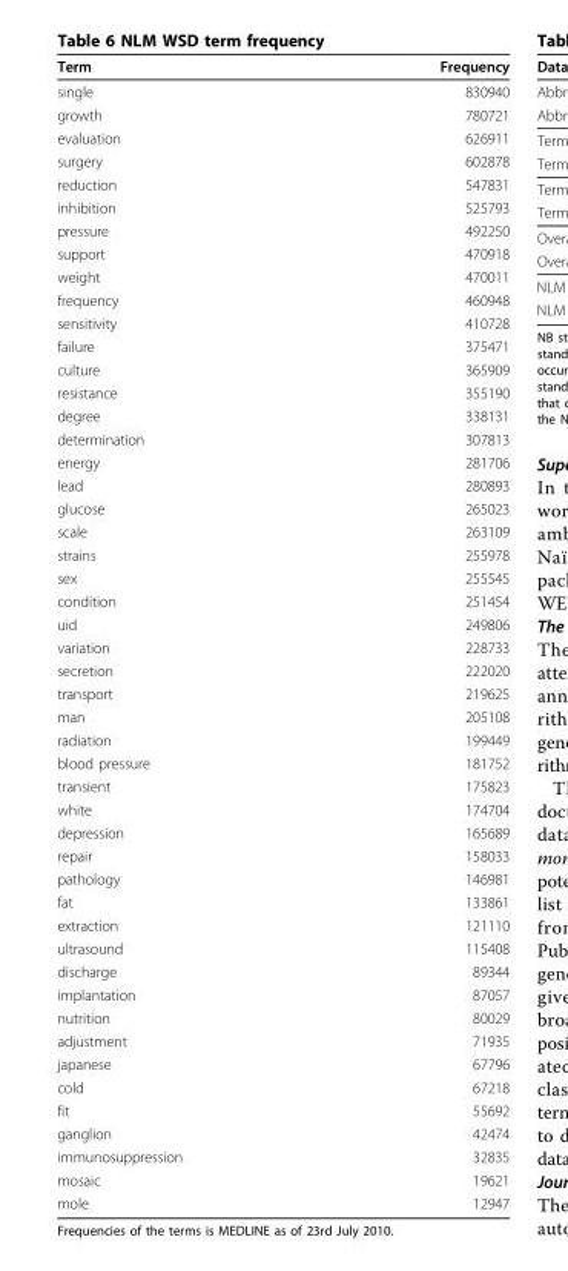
<table><thead><tr><td>Term</td><td>Frequency</td></tr></thead><tbody><tr><td>single</td><td>830940</td></tr><tr><td>growth</td><td>780721</td></tr><tr><td>evaluation</td><td>626911</td></tr><tr><td>surgery</td><td>602878</td></tr><tr><td>reduction</td><td>547831</td></tr><tr><td>inhibition</td><td>525793</td></tr><tr><td>pressure</td><td>492250</td></tr><tr><td>support</td><td>470918</td></tr><tr><td>weight</td><td>470011</td></tr><tr><td>frequency</td><td>460948</td></tr><tr><td>sensitivity</td><td>410728</td></tr><tr><td>failure</td><td>375471</td></tr><tr><td>culture</td><td>365909</td></tr><tr><td>resistance</td><td>355190</td></tr><tr><td>degree</td><td>338131</td></tr><tr><td>determination</td><td>307813</td></tr><tr><td>energy</td><td>281706</td></tr><tr><td>lead</td><td>280893</td></tr><tr><td>glucose</td><td>265023</td></tr><tr><td>scale</td><td>263109</td></tr><tr><td>strains</td><td>255978</td></tr><tr><td>sex</td><td>255545</td></tr><tr><td>condition</td><td>251454</td></tr><tr><td>uid</td><td>249806</td></tr><tr><td>variation</td><td>228733</td></tr><tr><td>secretion</td><td>222020</td></tr><tr><td>transport</td><td>219625</td></tr><tr><td>man</td><td>205108</td></tr><tr><td>radiation</td><td>199449</td></tr><tr><td>blood pressure</td><td>181752</td></tr><tr><td>transient</td><td>175823</td></tr><tr><td>white</td><td>174704</td></tr><tr><td>depression</td><td>165689</td></tr><tr><td>repair</td><td>158033</td></tr><tr><td>pathology</td><td>146981</td></tr><tr><td>fat</td><td>133861</td></tr><tr><td>extraction</td><td>121110</td></tr><tr><td>ultrasound</td><td>115408</td></tr><tr><td>discharge</td><td>89344</td></tr><tr><td>implantation</td><td>87057</td></tr><tr><td>nutrition</td><td>80029</td></tr><tr><td>adjustment</td><td>71935</td></tr><tr><td>japanese</td><td>67796</td></tr><tr><td>cold</td><td>67218</td></tr><tr><td>fit</td><td>55692</td></tr><tr><td>ganglion</td><td>42474</td></tr><tr><td>immunosuppression</td><td>32835</td></tr><tr><td>mosaic</td><td>19621</td></tr><tr><td>mole</td><td>12947</td></tr></tbody></table>